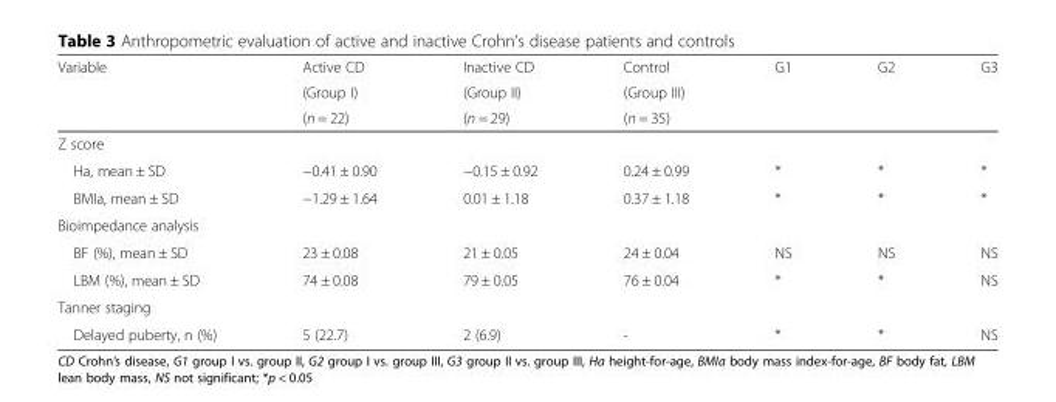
<table><thead><tr><td rowspan="3">Variable</td><td rowspan="3">Active CD (Group I) (n = 22)</td><td rowspan="3">Inactive CD (Group II) (n = 29)</td><td rowspan="3">Control (Group III) (n = 35)</td><td rowspan="3">G1</td><td rowspan="3">G2</td><td rowspan="3">G3</td></tr><tr></tr><tr></tr></thead><tbody><tr><td colspan="7">Z score</td></tr><tr><td>Ha, mean ± SD</td><td>−0.41 ± 0.90</td><td>−0.15 ± 0.92</td><td>0.24 ± 0.99</td><td>*</td><td>*</td><td>*</td></tr><tr><td>BMIa, mean ± SD</td><td>−1.29 ± 1.64</td><td>0.01 ± 1.18</td><td>0.37 ± 1.18</td><td>*</td><td>*</td><td>*</td></tr><tr><td colspan="7">Bioimpedance analysis</td></tr><tr><td>BF (%), mean ± SD</td><td>23 ± 0.08</td><td>21 ± 0.05</td><td>24 ± 0.04</td><td>NS</td><td>NS</td><td>NS</td></tr><tr><td>LBM (%), mean ± SD</td><td>74 ± 0.08</td><td>79 ± 0.05</td><td>76 ± 0.04</td><td>*</td><td>*</td><td>NS</td></tr><tr><td colspan="7">Tanner staging</td></tr><tr><td>Delayed puberty, n (%)</td><td>5 (22.7)</td><td>2 (6.9)</td><td>-</td><td>*</td><td>*</td><td>NS</td></tr></tbody></table>